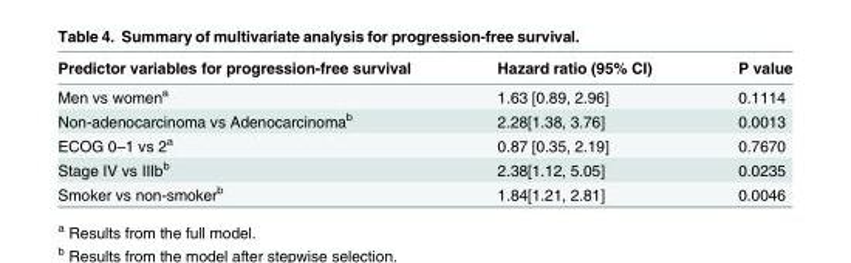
<table><thead><tr><td>Predictor variables for progression-free survival</td><td>Hazard ratio (95% CI)</td><td>P value</td></tr></thead><tbody><tr><td>Men vs women<sup>a</sup></td><td>1.63 [0.89, 2.96]</td><td>0.1114</td></tr><tr><td>Non-adenocarcinoma vs Adenocarcinoma<sup>b</sup></td><td>2.28[1.38, 3.76]</td><td>0.0013</td></tr><tr><td>ECOG 0–1 vs 2<sup>a</sup></td><td>0.87 [0.35, 2.19]</td><td>0.7670</td></tr><tr><td>Stage IV vs IIIb<sup>b</sup></td><td>2.38[1.12, 5.05]</td><td>0.0235</td></tr><tr><td>Smoker vs non-smoker<sup>b</sup></td><td>1.84[1.21, 2.81]</td><td>0.0046</td></tr></tbody></table>